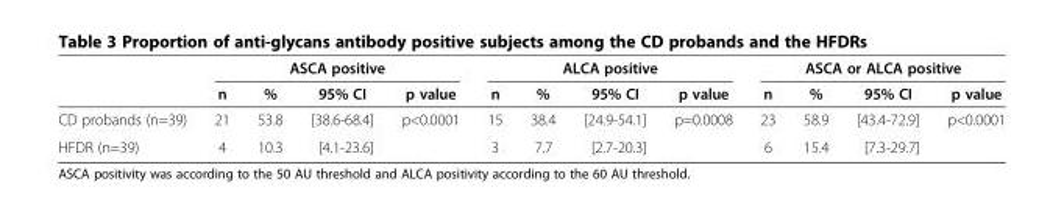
<table><thead><tr><td rowspan="2"></td><td colspan="4">ASCA positive</td><td colspan="4">ALCA positive</td><td colspan="4">ASCA or ALCA positive</td></tr><tr><td>n</td><td>%</td><td>95% CI</td><td>p value</td><td>n</td><td>%</td><td>95% CI</td><td>p value</td><td>n</td><td>%</td><td>95% CI</td><td>p value</td></tr></thead><tbody><tr><td>CD probands (n=39)</td><td>21</td><td>53.8</td><td>[38.6-68.4]</td><td>p&lt;0.0001</td><td>15</td><td>38.4</td><td>[24.9-54.1]</td><td>p=0.0008</td><td>23</td><td>58.9</td><td>[43.4-72.9]</td><td>p&lt;0.0001</td></tr><tr><td>HFDR (n=39)</td><td>4</td><td>10.3</td><td>[4.1-23.6]</td><td></td><td>3</td><td>7.7</td><td>[2.7-20.3]</td><td></td><td>6</td><td>15.4</td><td>[7.3-29.7]</td><td></td></tr></tbody></table>